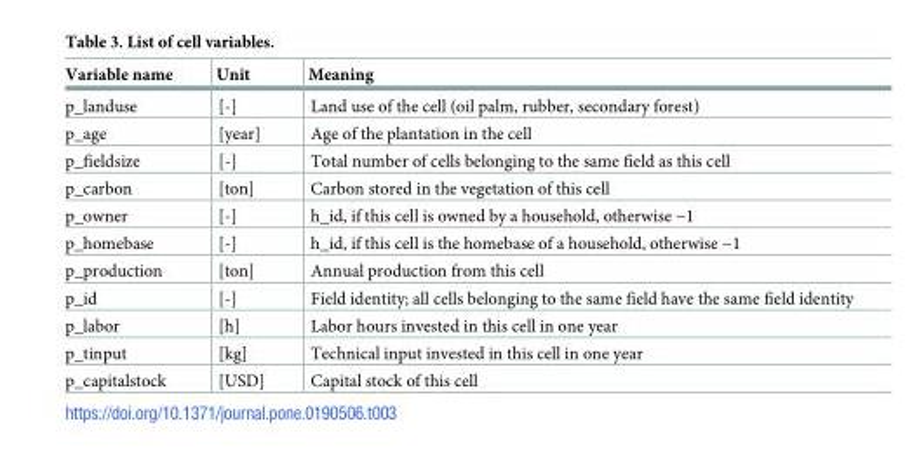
<table><thead><tr><td>Variable name</td><td>Unit</td><td>Meaning</td></tr></thead><tbody><tr><td>p_landuse</td><td>[-]</td><td>Land use of the cell (oil palm, rubber, secondary forest)</td></tr><tr><td>p_age</td><td>[year]</td><td>Age of the plantation in the cell</td></tr><tr><td>p_fieldsize</td><td>[-]</td><td>Total number of cells belonging to the same field as this cell</td></tr><tr><td>p_carbon</td><td>[ton]</td><td>Carbon stored in the vegetation of this cell</td></tr><tr><td>p_owner</td><td>[-]</td><td>h_id, if this cell is owned by a household, otherwise −1</td></tr><tr><td>p_homebase</td><td>[-]</td><td>h_id, if this cell is the homebase of a household, otherwise −1</td></tr><tr><td>p_production</td><td>[ton]</td><td>Annual production from this cell</td></tr><tr><td>p_id</td><td>[-]</td><td>Field identity; all cells belonging to the same field have the same field identity</td></tr><tr><td>p_labor</td><td>[h]</td><td>Labor hours invested in this cell in one year</td></tr><tr><td>p_tinput</td><td>[kg]</td><td>Technical input invested in this cell in one year</td></tr><tr><td>p_capitalstock</td><td>[USD]</td><td>Capital stock of this cell</td></tr></tbody></table>